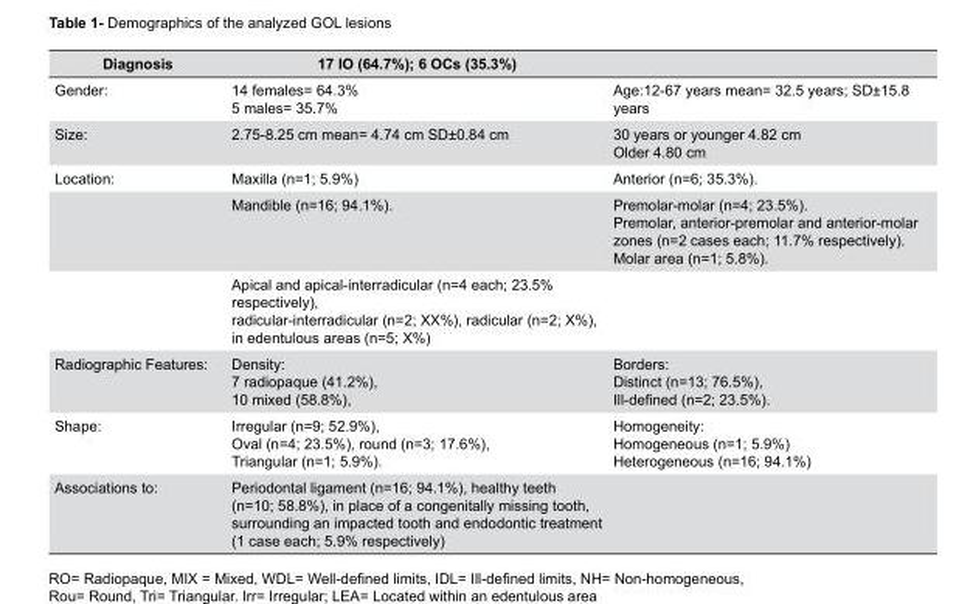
<table><thead><tr><td>Diagnosis</td><td>17 IO (64.7%); 6 OCs (35.3%)</td><td></td></tr></thead><tbody><tr><td>Gender:</td><td>14 females= 64.3% 5 males= 35.7%</td><td>Age:12-67 years mean= 32.5 years; SD±15.8 years</td></tr><tr><td>Size:</td><td>2.75-8.25 cm mean= 4.74 cm SD±0.84 cm</td><td>30 years or younger 4.82 cm Older 4.80 cm</td></tr><tr><td rowspan="3">Location:</td><td>Maxilla (n=1; 5.9%)</td><td>Anterior (n=6; 35.3%).</td></tr><tr><td>Mandible (n=16; 94.1%).</td><td>Premolar-molar (n=4; 23.5%). Premolar, anterior-premolar and anterior-molar zones (n=2 cases each; 11.7% respectively). Molar area (n=1; 5.8%).</td></tr><tr><td>Apical and apical-interradicular (n=4 each; 23.5% respectively), radicular-interradicular (n=2; XX%), radicular (n=2; X%), in edentulous areas (n=5; X%)</td><td></td></tr><tr><td>Radiographic Features:</td><td>Density: 7 radiopaque (41.2%), 10 mixed (58.8%),</td><td>Borders: Distinct (n=13; 76.5%), Ill-defined (n=2; 23.5%).</td></tr><tr><td>Shape:</td><td>Irregular (n=9; 52.9%), Oval (n=4; 23.5%), round (n=3; 17.6%), Triangular (n=1; 5.9%).</td><td>Homogeneity: Homogeneous (n=1; 5.9%) Heterogeneous (n=16; 94.1%)</td></tr><tr><td>Associations to:</td><td>Periodontal ligament (n=16; 94.1%), healthy teeth (n=10; 58.8%), in place of a congenitally missing tooth, surrounding an impacted tooth and endodontic treatment (1 case each; 5.9% respectively)</td><td></td></tr></tbody></table>